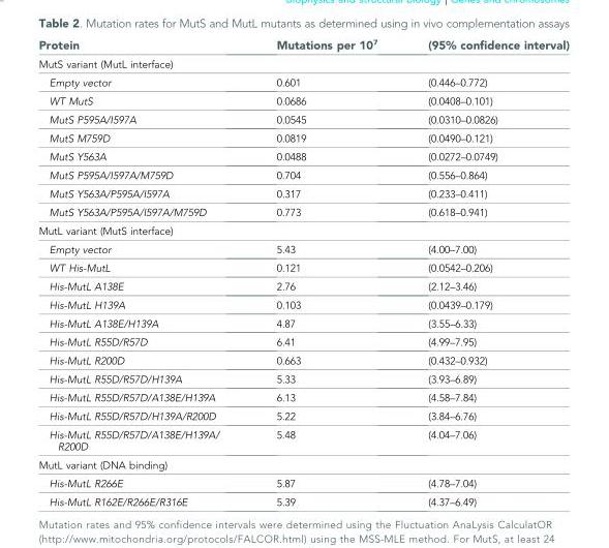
<table><thead><tr><td>Protein</td><td>Mutations per 10<sup>7</sup></td><td>(95% confidence interval)</td></tr></thead><tbody><tr><td colspan="3">MutS variant (MutL interface)</td></tr><tr><td>Empty vector</td><td>0.601</td><td>(0.446–0.772)</td></tr><tr><td>WT MutS</td><td>0.0686</td><td>(0.0408–0.101)</td></tr><tr><td>MutS P595A/I597A</td><td>0.0545</td><td>(0.0310–0.0826)</td></tr><tr><td>MutS M759D</td><td>0.0819</td><td>(0.0490–0.121)</td></tr><tr><td>MutS Y563A</td><td>0.0488</td><td>(0.0272–0.0749)</td></tr><tr><td>MutS P595A/I597A/M759D</td><td>0.704</td><td>(0.556–0.864)</td></tr><tr><td>MutS Y563A/P595A/I597A</td><td>0.317</td><td>(0.233–0.411)</td></tr><tr><td>MutS Y563A/P595A/I597A/M759D</td><td>0.773</td><td>(0.618–0.941)</td></tr><tr><td colspan="3">MutL variant (MutS interface)</td></tr><tr><td>Empty vector</td><td>5.43</td><td>(4.00–7.00)</td></tr><tr><td>WT His-MutL</td><td>0.121</td><td>(0.0542–0.206)</td></tr><tr><td>His-MutL A138E</td><td>2.76</td><td>(2.12–3.46)</td></tr><tr><td>His-MutL H139A</td><td>0.103</td><td>(0.0439–0.179)</td></tr><tr><td>His-MutL A138E/H139A</td><td>4.87</td><td>(3.55–6.33)</td></tr><tr><td>His-MutL R55D/R57D</td><td>6.41</td><td>(4.99–7.95)</td></tr><tr><td>His-MutL R200D</td><td>0.663</td><td>(0.432–0.932)</td></tr><tr><td>His-MutL R55D/R57D/H139A</td><td>5.33</td><td>(3.93–6.89)</td></tr><tr><td>His-MutL R55D/R57D/A138E/H139A</td><td>6.13</td><td>(4.58–7.84)</td></tr><tr><td>His-MutL R55D/R57D/H139A/R200D</td><td>5.22</td><td>(3.84–6.76)</td></tr><tr><td>His-MutL R55D/R57D/A138E/H139A/ R200D</td><td>5.48</td><td>(4.04–7.06)</td></tr><tr><td colspan="3">MutL variant (DNA binding)</td></tr><tr><td>His-MutL R266E</td><td>5.87</td><td>(4.78–7.04)</td></tr><tr><td>His-MutL R162E/R266E/R316E</td><td>5.39</td><td>(4.37–6.49)</td></tr></tbody></table>